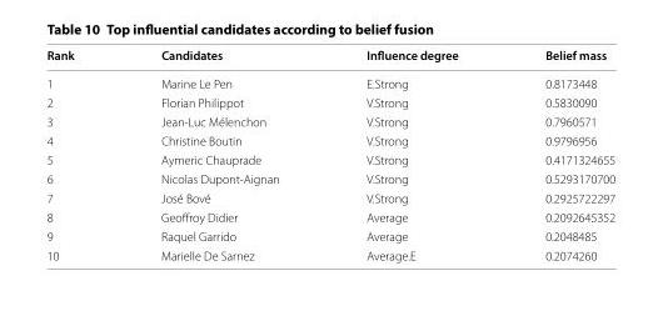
<table><thead><tr><td>Rank</td><td>Candidates</td><td>Influence degree</td><td>Belief mass</td></tr></thead><tbody><tr><td>1</td><td>Marine Le Pen</td><td>E.Strong</td><td>0.8173448</td></tr><tr><td>2</td><td>Florian Philippot</td><td>V.Strong</td><td>0.5830090</td></tr><tr><td>3</td><td>Jean-Luc Mélenchon</td><td>V.Strong</td><td>0.7960571</td></tr><tr><td>4</td><td>Christine Boutin</td><td>V.Strong</td><td>0.9796956</td></tr><tr><td>5</td><td>Aymeric Chauprade</td><td>V.Strong</td><td>0.4171324655</td></tr><tr><td>6</td><td>Nicolas Dupont-Aignan</td><td>V.Strong</td><td>0.5293170700</td></tr><tr><td>7</td><td>José Bové</td><td>V.Strong</td><td>0.2925722297</td></tr><tr><td>8</td><td>Geoffroy Didier</td><td>Average</td><td>0.2092645352</td></tr><tr><td>9</td><td>Raquel Garrido</td><td>Average</td><td>0.2048485</td></tr><tr><td>10</td><td>Marielle De Sarnez</td><td>Average.E</td><td>0.2074260</td></tr></tbody></table>